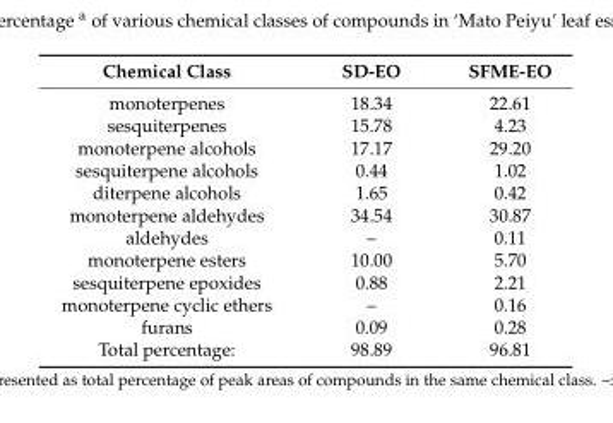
<table><thead><tr><td>Chemical Class</td><td>SD-EO</td><td>SFME-EO</td></tr></thead><tbody><tr><td>monoterpenes</td><td>18.34</td><td>22.61</td></tr><tr><td>sesquiterpenes</td><td>15.78</td><td>4.23</td></tr><tr><td>monoterpene alcohols</td><td>17.17</td><td>29.20</td></tr><tr><td>sesquiterpene alcohols</td><td>0.44</td><td>1.02</td></tr><tr><td>diterpene alcohols</td><td>1.65</td><td>0.42</td></tr><tr><td>monoterpene aldehydes</td><td>34.54</td><td>30.87</td></tr><tr><td>aldehydes</td><td>–</td><td>0.11</td></tr><tr><td>monoterpene esters</td><td>10.00</td><td>5.70</td></tr><tr><td>sesquiterpene epoxides</td><td>0.88</td><td>2.21</td></tr><tr><td>monoterpene cyclic ethers</td><td>–</td><td>0.16</td></tr><tr><td>furans</td><td>0.09</td><td>0.28</td></tr><tr><td>Total percentage:</td><td>98.89</td><td>96.81</td></tr></tbody></table>